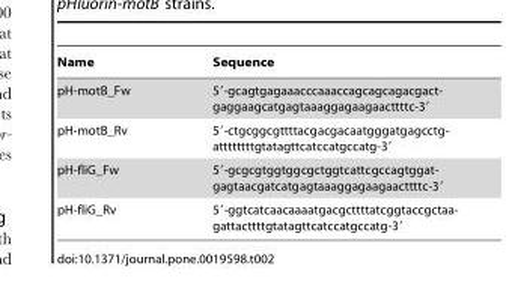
<table><thead><tr><td>Name</td><td>Sequence</td></tr></thead><tbody><tr><td>pH-motB_Fw</td><td>59-gcagtgagaaacccaaaccagcagcagacgact- gaggaagcatgagtaaaggagaagaacttttc-39</td></tr><tr><td>pH-motB_Rv</td><td>59-ctgcggcgttttacgacgacaatgggatgagcctg- attttttttgtatagttcatccatgccatg-39</td></tr><tr><td>pH-fliG_Fw</td><td>59-gcgcgtggtggcgctggtcattcgccagtggat- gagtaacgatcatgagtaaaggagaagaacttttc-39</td></tr><tr><td>pH-fliG_Rv</td><td>59-ggtcatcaacaaaatgacgcttttatcggtaccgctaa- gattacttttgtatagttcatccatgccatg-39</td></tr></tbody></table>